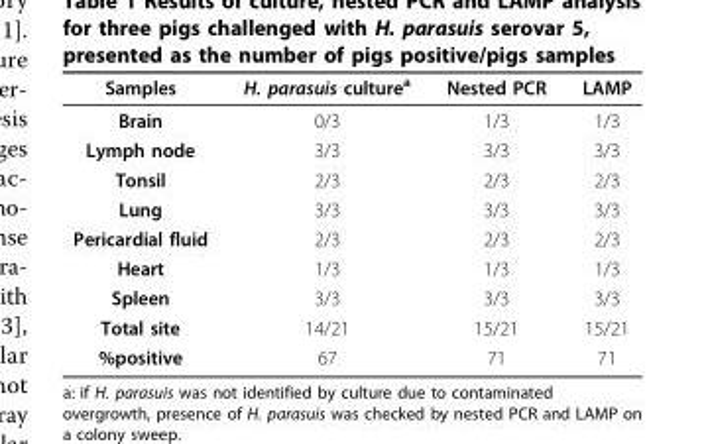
<table><thead><tr><td>Samples</td><td>H. parasuis culture<sup>a</sup></td><td>Nested PCR</td><td>LAMP</td></tr></thead><tbody><tr><td>Brain</td><td>0/3</td><td>1/3</td><td>1/3</td></tr><tr><td>Lymph node</td><td>3/3</td><td>3/3</td><td>3/3</td></tr><tr><td>Tonsil</td><td>2/3</td><td>2/3</td><td>2/3</td></tr><tr><td>Lung</td><td>3/3</td><td>3/3</td><td>3/3</td></tr><tr><td>Pericardial fluid</td><td>2/3</td><td>2/3</td><td>2/3</td></tr><tr><td>Heart</td><td>1/3</td><td>1/3</td><td>1/3</td></tr><tr><td>Spleen</td><td>3/3</td><td>3/3</td><td>3/3</td></tr><tr><td>Total site</td><td>14/21</td><td>15/21</td><td>15/21</td></tr><tr><td>%positive</td><td>67</td><td>71</td><td>71</td></tr></tbody></table>